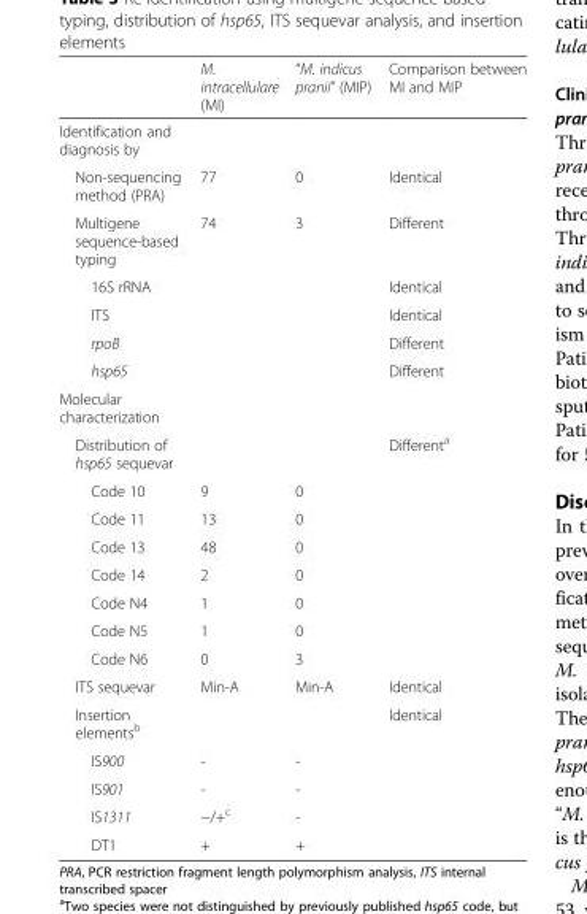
<table><thead><tr><td></td><td>M. intracellulare (MI)</td><td>“M. indicus pranii” (MIP)</td><td>Comparison between MI and MIP</td></tr></thead><tbody><tr><td colspan="4">Identification and diagnosis by</td></tr><tr><td>Non-sequencing method (PRA)</td><td>77</td><td>0</td><td>Identical</td></tr><tr><td>Multigene sequence-based typing</td><td>74</td><td>3</td><td>Different</td></tr><tr><td>16S rRNA</td><td></td><td></td><td>Identical</td></tr><tr><td>ITS</td><td></td><td></td><td>Identical</td></tr><tr><td>rpoB</td><td></td><td></td><td>Different</td></tr><tr><td>hsp65</td><td></td><td></td><td>Different</td></tr><tr><td colspan="4">Molecular characterization</td></tr><tr><td colspan="3">Distribution of hsp65 sequevar</td><td rowspan="8">Different<sup>a</sup></td></tr><tr><td>Code 10</td><td>9</td><td>0</td></tr><tr><td>Code 11</td><td>13</td><td>0</td></tr><tr><td>Code 13</td><td>48</td><td>0</td></tr><tr><td>Code 14</td><td>2</td><td>0</td></tr><tr><td>Code N4</td><td>1</td><td>0</td></tr><tr><td>Code N5</td><td>1</td><td>0</td></tr><tr><td>Code N6</td><td>0</td><td>3</td></tr><tr><td>ITS sequevar</td><td>Min-A</td><td>Min-A</td><td>Identical</td></tr><tr><td colspan="3">Insertion elements<sup>b</sup></td><td rowspan="5">Identical</td></tr><tr><td>IS900</td><td>-</td><td>-</td></tr><tr><td>IS901</td><td>-</td><td>-</td></tr><tr><td>IS1311</td><td>−/+<sup>c</sup></td><td>-</td></tr><tr><td>DT1</td><td>+</td><td>+</td></tr></tbody></table>